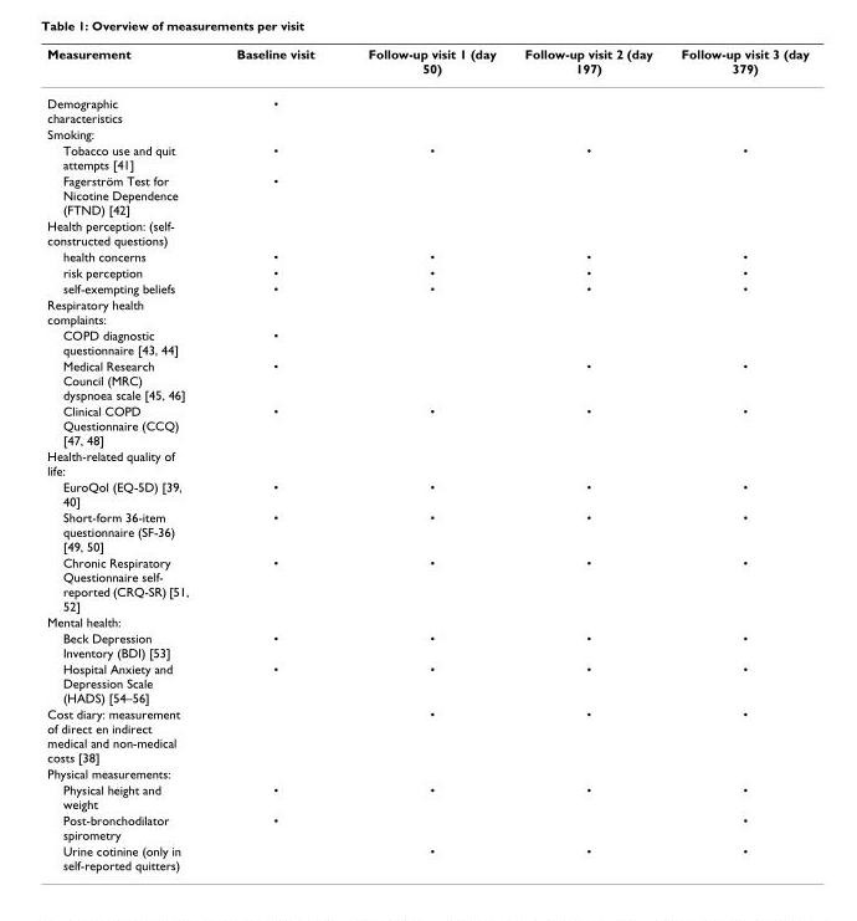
<table><thead><tr><td>Measurement</td><td>Baseline visit</td><td>Follow-up visit 1 (day 50)</td><td>Follow-up visit 2 (day 197)</td><td>Follow-up visit 3 (day 379)</td></tr></thead><tbody><tr><td>Demographic characteristics</td><td>•</td><td></td><td></td><td></td></tr><tr><td colspan="5">Smoking:</td></tr><tr><td>Tobacco use and quit attempts [41]</td><td>•</td><td>•</td><td>•</td><td>•</td></tr><tr><td>Fagerström Test for Nicotine Dependence (FTND) [42]</td><td>•</td><td></td><td></td><td></td></tr><tr><td colspan="5">Health perception: (self- constructed questions)</td></tr><tr><td>health concerns</td><td>•</td><td>•</td><td>•</td><td>•</td></tr><tr><td>risk perception</td><td>•</td><td>•</td><td>•</td><td>•</td></tr><tr><td>self-exempting beliefs</td><td>•</td><td>•</td><td>•</td><td>•</td></tr><tr><td colspan="5">Respiratory health complaints:</td></tr><tr><td>COPD diagnostic questionnaire [43, 44]</td><td>•</td><td></td><td></td><td></td></tr><tr><td>Medical Research Council (MRC) dyspnoea scale [45, 46]</td><td>•</td><td></td><td>•</td><td>•</td></tr><tr><td>Clinical COPD Questionnaire (CCQ) [47, 48]</td><td>•</td><td>•</td><td>•</td><td>•</td></tr><tr><td colspan="5">Health-related quality of life:</td></tr><tr><td>EuroQol (EQ-5D) [39, 40]</td><td>•</td><td>•</td><td>•</td><td>•</td></tr><tr><td>Short-form 36-item questionnaire (SF-36) [49, 50]</td><td>•</td><td>•</td><td>•</td><td>•</td></tr><tr><td>Chronic Respiratory Questionnaire self- reported (CRQ-SR) [51, 52]</td><td>•</td><td>•</td><td>•</td><td>•</td></tr><tr><td colspan="5">Mental health:</td></tr><tr><td>Beck Depression Inventory (BDI) [53]</td><td>•</td><td>•</td><td>•</td><td>•</td></tr><tr><td>Hospital Anxiety and Depression Scale (HADS) [54–56]</td><td>•</td><td>•</td><td>•</td><td>•</td></tr><tr><td>Cost diary: measurement of direct en indirect medical and non-medical costs [38]</td><td></td><td>•</td><td>•</td><td>•</td></tr><tr><td colspan="5">Physical measurements:</td></tr><tr><td>Physical height and weight</td><td>•</td><td>•</td><td>•</td><td>•</td></tr><tr><td>Post-bronchodilator spirometry</td><td>•</td><td></td><td></td><td>•</td></tr><tr><td>Urine cotinine (only in self-reported quitters)</td><td></td><td>•</td><td>•</td><td>•</td></tr></tbody></table>